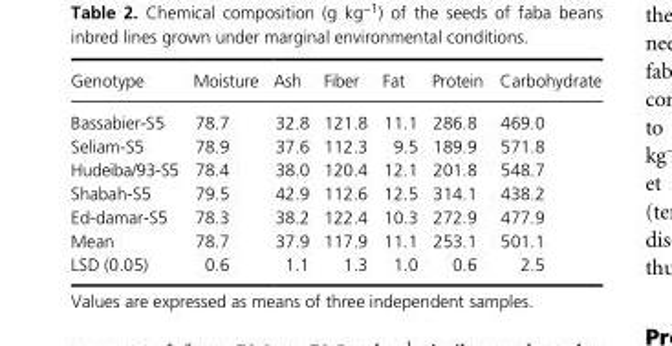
<table><thead><tr><td>Genotype</td><td>Moisture</td><td>Ash</td><td>Fiber</td><td>Fat</td><td>Protein</td><td>Carbohydrate</td></tr></thead><tbody><tr><td>Bassabier- S5</td><td>78.7</td><td>32.8</td><td>121.8</td><td>11.1</td><td>286.8</td><td>469.0</td></tr><tr><td>Seliam- S5</td><td>78.9</td><td>37.6</td><td>112.3</td><td>9.5</td><td>189.9</td><td>571.8</td></tr><tr><td>Hudeiba/93- S5</td><td>78.4</td><td>38.0</td><td>120.4</td><td>12.1</td><td>201.8</td><td>548.7</td></tr><tr><td>Shabah- S5</td><td>79.5</td><td>42.9</td><td>112.6</td><td>12.5</td><td>314.1</td><td>438.2</td></tr><tr><td>Ed- damar- S5</td><td>78.3</td><td>38.2</td><td>122.4</td><td>10.3</td><td>272.9</td><td>477.9</td></tr><tr><td>Mean</td><td>78.7</td><td>37.9</td><td>117.9</td><td>11.1</td><td>253.1</td><td>501.1</td></tr><tr><td>LSD (0.05)</td><td>0.6</td><td>1.1</td><td>1.3</td><td>1.0</td><td>0.6</td><td>2.5</td></tr></tbody></table>